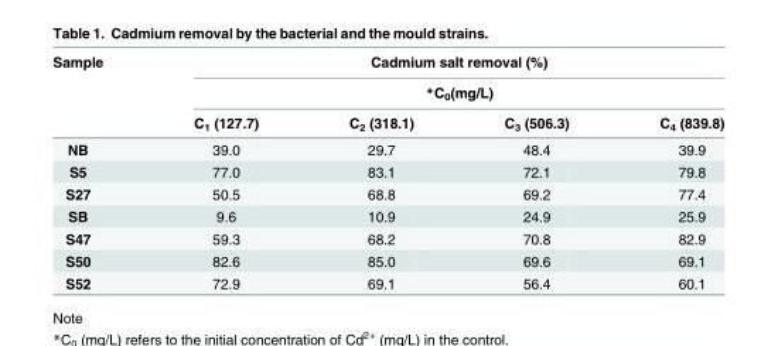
<table><thead><tr><td rowspan="3">Sample</td><td rowspan="2" colspan="4">Cadmium salt removal (%) *C<sub>0</sub>(mg/L)</td></tr><tr></tr><tr><td>C<sub>1</sub> (127.7)</td><td>C<sub>2</sub> (318.1)</td><td>C<sub>3</sub> (506.3)</td><td>C<sub>4</sub> (839.8)</td></tr></thead><tbody><tr><td>NB</td><td>39.0</td><td>29.7</td><td>48.4</td><td>39.9</td></tr><tr><td>S5</td><td>77.0</td><td>83.1</td><td>72.1</td><td>79.8</td></tr><tr><td>S27</td><td>50.5</td><td>68.8</td><td>69.2</td><td>77.4</td></tr><tr><td>SB</td><td>9.6</td><td>10.9</td><td>24.9</td><td>25.9</td></tr><tr><td>S47</td><td>59.3</td><td>68.2</td><td>70.8</td><td>82.9</td></tr><tr><td>S50</td><td>82.6</td><td>85.0</td><td>69.6</td><td>69.1</td></tr><tr><td>S52</td><td>72.9</td><td>69.1</td><td>56.4</td><td>60.1</td></tr></tbody></table>